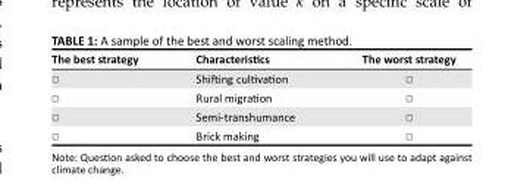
<table><thead><tr><td>The best strategy</td><td>Characteristics</td><td>The worst strategy</td></tr></thead><tbody><tr><td>□</td><td>Shifting cultivation</td><td>□</td></tr><tr><td>□</td><td>Rural migration</td><td>□</td></tr><tr><td>□</td><td>Semi-transhumance</td><td>□</td></tr><tr><td>□</td><td>Brick making</td><td>□</td></tr></tbody></table>